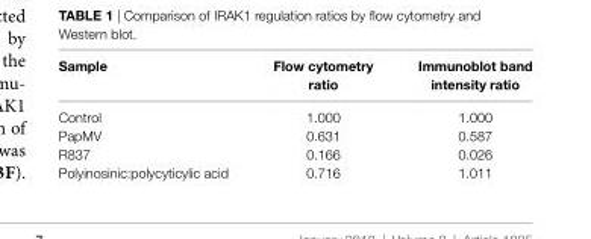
<table><thead><tr><td>sample</td><td>Flow cytometry ratio</td><td>immunoblot band intensity ratio</td></tr></thead><tbody><tr><td>Control</td><td>1.000</td><td>1.000</td></tr><tr><td>PapMV</td><td>0.631</td><td>0.587</td></tr><tr><td>R837</td><td>0.166</td><td>0.026</td></tr><tr><td>Polyinosinic:polycyticylic acid</td><td>0.716</td><td>1.011</td></tr></tbody></table>